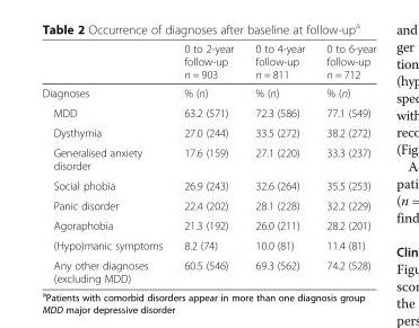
<table><thead><tr><td></td><td>0 to 2-year follow-up n = 903</td><td>0 to 4-year follow-up n = 811</td><td>0 to 6-year follow-up n = 712</td></tr></thead><tbody><tr><td>Diagnoses</td><td>% (n)</td><td>% (n)</td><td>% (n)</td></tr><tr><td>MDD</td><td>63.2 (571)</td><td>72.3 (586)</td><td>77.1 (549)</td></tr><tr><td>Dysthymia</td><td>27.0 (244)</td><td>33.5 (272)</td><td>38.2 (272)</td></tr><tr><td>Generalised anxiety disorder</td><td>17.6 (159)</td><td>27.1 (220)</td><td>33.3 (237)</td></tr><tr><td>Social phobia</td><td>26.9 (243)</td><td>32.6 (264)</td><td>35.5 (253)</td></tr><tr><td>Panic disorder</td><td>22.4 (202)</td><td>28.1 (228)</td><td>32.2 (229)</td></tr><tr><td>Agoraphobia</td><td>21.3 (192)</td><td>26.0 (211)</td><td>28.2 (201)</td></tr><tr><td>(Hypo)manic symptoms</td><td>8.2 (74)</td><td>10.0 (81)</td><td>11.4 (81)</td></tr><tr><td>Any other diagnoses (excluding MDD)</td><td>60.5 (546)</td><td>69.3 (562)</td><td>74.2 (528)</td></tr></tbody></table>